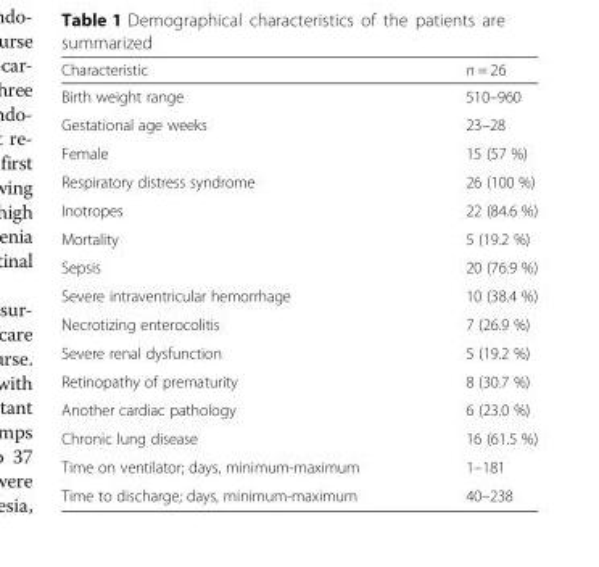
<table><thead><tr><td>Characteristic</td><td>n = 26</td></tr></thead><tbody><tr><td>Birth weight range</td><td>510–960</td></tr><tr><td>Gestational age weeks</td><td>23–28</td></tr><tr><td>Female</td><td>15 (57 %)</td></tr><tr><td>Respiratory distress syndrome</td><td>26 (100 %)</td></tr><tr><td>Inotropes</td><td>22 (84.6 %)</td></tr><tr><td>Mortality</td><td>5 (19.2 %)</td></tr><tr><td>Sepsis</td><td>20 (76.9 %)</td></tr><tr><td>Severe intraventricular hemorrhage</td><td>10 (38.4 %)</td></tr><tr><td>Necrotizing enterocolitis</td><td>7 (26.9 %)</td></tr><tr><td>Severe renal dysfunction</td><td>5 (19.2 %)</td></tr><tr><td>Retinopathy of prematurity</td><td>8 (30.7 %)</td></tr><tr><td>Another cardiac pathology</td><td>6 (23.0 %)</td></tr><tr><td>Chronic lung disease</td><td>16 (61.5 %)</td></tr><tr><td>Time on ventilator; days, minimum-maximum</td><td>1–181</td></tr><tr><td>Time to discharge; days, minimum-maximum</td><td>40–238</td></tr></tbody></table>